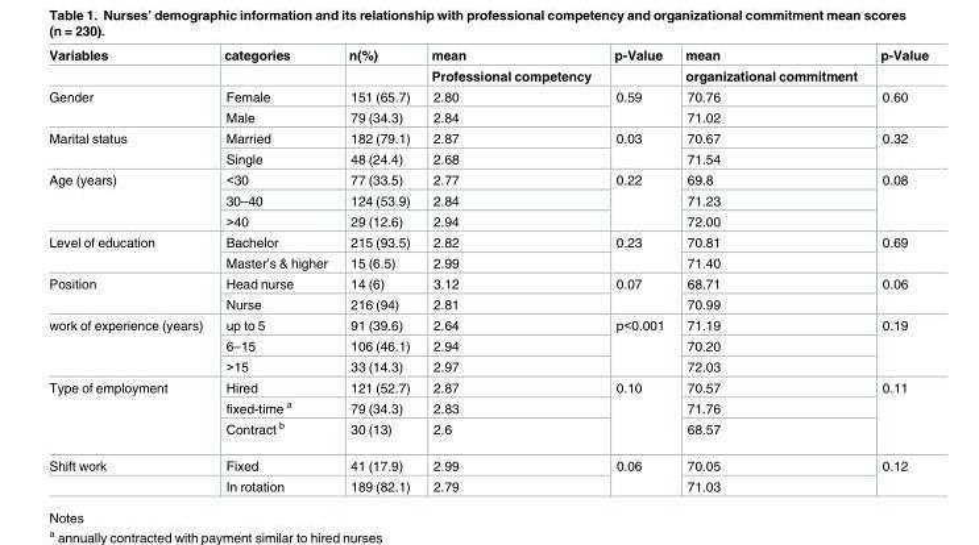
<table><thead><tr><td rowspan="2">Variables</td><td rowspan="2">categories</td><td rowspan="2">n(%)</td><td rowspan="2">mean Professional competency</td><td rowspan="2">p-Value</td><td rowspan="2">mean organizational commitment</td><td rowspan="2">p-Value</td></tr><tr></tr></thead><tbody><tr><td rowspan="2">Gender</td><td>Female</td><td>151 (65.7)</td><td>2.80</td><td rowspan="2">0.59</td><td>70.76</td><td rowspan="2">0.60</td></tr><tr><td>Male</td><td>79 (34.3)</td><td>2.84</td><td>71.02</td></tr><tr><td rowspan="2">Marital status</td><td>Married</td><td>182 (79.1)</td><td>2.87</td><td rowspan="2">0.03</td><td>70.67</td><td rowspan="2">0.32</td></tr><tr><td>Single</td><td>48 (24.4)</td><td>2.68</td><td>71.54</td></tr><tr><td rowspan="3">Age (years)</td><td>&lt;30</td><td>77 (33.5)</td><td>2.77</td><td rowspan="3">0.22</td><td>69.8</td><td rowspan="3">0.08</td></tr><tr><td>30–40</td><td>124 (53.9)</td><td>2.84</td><td>71.23</td></tr><tr><td>&gt;40</td><td>29 (12.6)</td><td>2.94</td><td>72.00</td></tr><tr><td rowspan="2">Level of education</td><td>Bachelor</td><td>215 (93.5)</td><td>2.82</td><td rowspan="2">0.23</td><td>70.81</td><td rowspan="2">0.69</td></tr><tr><td>Master’s &amp; higher</td><td>15 (6.5)</td><td>2.99</td><td>71.40</td></tr><tr><td rowspan="2">Position</td><td>Head nurse</td><td>14 (6)</td><td>3.12</td><td rowspan="2">0.07</td><td>68.71</td><td rowspan="2">0.06</td></tr><tr><td>Nurse</td><td>216 (94)</td><td>2.81</td><td>70.99</td></tr><tr><td rowspan="3">work of experience (years)</td><td>up to 5</td><td>91 (39.6)</td><td>2.64</td><td rowspan="3">p&lt;0.001</td><td>71.19</td><td rowspan="3">0.19</td></tr><tr><td>6–15</td><td>106 (46.1)</td><td>2.94</td><td>70.20</td></tr><tr><td>&gt;15</td><td>33 (14.3)</td><td>2.97</td><td>72.03</td></tr><tr><td rowspan="3">Type of employment</td><td>Hired</td><td>121 (52.7)</td><td>2.87</td><td rowspan="3">0.10</td><td>70.57</td><td rowspan="3">0.11</td></tr><tr><td>fixed-time <sup>a</sup></td><td>79 (34.3)</td><td>2.83</td><td>71.76</td></tr><tr><td>Contract <sup>b</sup></td><td>30 (13)</td><td>2.6</td><td>68.57</td></tr><tr><td rowspan="2">Shift work</td><td>Fixed</td><td>41 (17.9)</td><td>2.99</td><td rowspan="2">0.06</td><td>70.05</td><td rowspan="2">0.12</td></tr><tr><td>In rotation</td><td>189 (82.1)</td><td>2.79</td><td>71.03</td></tr></tbody></table>